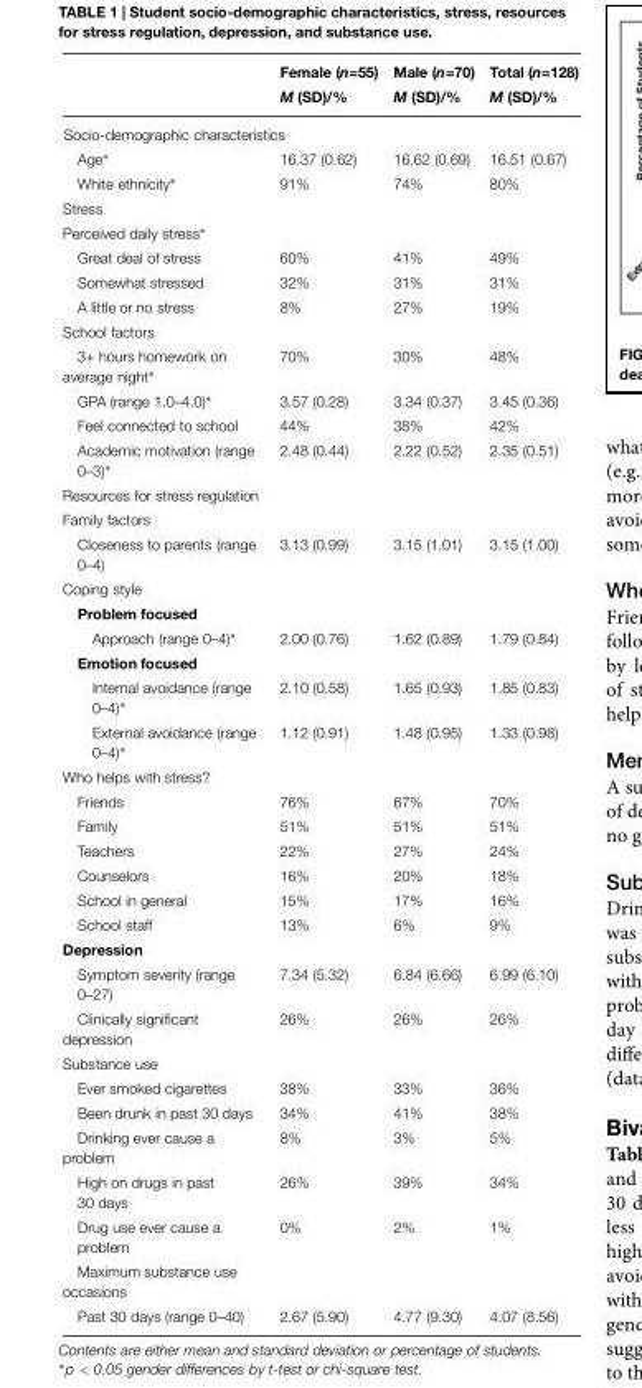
<table><thead><tr><td rowspan="2"></td><td rowspan="2">Female (n=55) M (SD)/%</td><td rowspan="2">Male (n=70) M (SD)/%</td><td rowspan="2">Total (n=128) M (SD)/%</td></tr><tr></tr></thead><tbody><tr><td colspan="4">Socio-demographic characteristics</td></tr><tr><td>Age∗</td><td>16.37 (0.62)</td><td>16.62 (0.69)</td><td>16.51 (0.67)</td></tr><tr><td>White ethnicity∗</td><td>91%</td><td>74%</td><td>80%</td></tr><tr><td colspan="4">Stress</td></tr><tr><td colspan="4">Perceived daily stress∗</td></tr><tr><td>Great deal of stress</td><td>60%</td><td>41%</td><td>49%</td></tr><tr><td>Somewhat stressed</td><td>32%</td><td>31%</td><td>31%</td></tr><tr><td>A little or no stress</td><td>8%</td><td>27%</td><td>19%</td></tr><tr><td colspan="4">School factors</td></tr><tr><td>3+ hours homework on average night∗</td><td>70%</td><td>30%</td><td>48%</td></tr><tr><td>GPA (range 1.0–4.0)∗</td><td>3.57 (0.28)</td><td>3.34 (0.37)</td><td>3.45 (0.36)</td></tr><tr><td>Feel connected to school</td><td>44%</td><td>38%</td><td>42%</td></tr><tr><td>Academic motivation (range 0–3)∗</td><td>2.48 (0.44)</td><td>2.22 (0.52)</td><td>2.35 (0.51)</td></tr><tr><td colspan="4">Resources for stress regulation</td></tr><tr><td colspan="4">Family factors</td></tr><tr><td>Closeness to parents (range 0–4)</td><td>3.13 (0.99)</td><td>3.15 (1.01)</td><td>3.15 (1.00)</td></tr><tr><td colspan="4">Coping style</td></tr><tr><td colspan="4">Problem focused</td></tr><tr><td>Approach (range 0–4)∗</td><td>2.00 (0.76)</td><td>1.62 (0.89)</td><td>1.79 (0.84)</td></tr><tr><td colspan="4">Emotion focused</td></tr><tr><td>Internal avoidance (range 0–4)∗</td><td>2.10 (0.58)</td><td>1.65 (0.93)</td><td>1.85 (0.83)</td></tr><tr><td>External avoidance (range 0–4)∗</td><td>1.12 (0.91)</td><td>1.48 (0.95)</td><td>1.33 (0.98)</td></tr><tr><td colspan="4">Who helps with stress?</td></tr><tr><td>Friends</td><td>76%</td><td>67%</td><td>70%</td></tr><tr><td>Family</td><td>51%</td><td>51%</td><td>51%</td></tr><tr><td>Teachers</td><td>22%</td><td>27%</td><td>24%</td></tr><tr><td>Counselors</td><td>16%</td><td>20%</td><td>18%</td></tr><tr><td>School in general</td><td>15%</td><td>17%</td><td>16%</td></tr><tr><td>School staff</td><td>13%</td><td>6%</td><td>9%</td></tr><tr><td colspan="4">Depression</td></tr><tr><td>Symptom severity (range 0–27)</td><td>7.34 (5.32)</td><td>6.84 (6.66)</td><td>6.99 (6.10)</td></tr><tr><td>Clinically significant depression</td><td>26%</td><td>26%</td><td>26%</td></tr><tr><td colspan="4">Substance use</td></tr><tr><td>Ever smoked cigarettes</td><td>38%</td><td>33%</td><td>36%</td></tr><tr><td>Been drunk in past 30 days</td><td>34%</td><td>41%</td><td>38%</td></tr><tr><td>Drinking ever cause a problem</td><td>8%</td><td>3%</td><td>5%</td></tr><tr><td>High on drugs in past 30 days</td><td>26%</td><td>39%</td><td>34%</td></tr><tr><td>Drug use ever cause a problem</td><td>0%</td><td>2%</td><td>1%</td></tr><tr><td colspan="4">Maximum substance use occasions</td></tr><tr><td>Past 30 days (range 0–40)</td><td>2.67 (5.90)</td><td>4.77 (9.30)</td><td>4.07 (8.56)</td></tr></tbody></table>